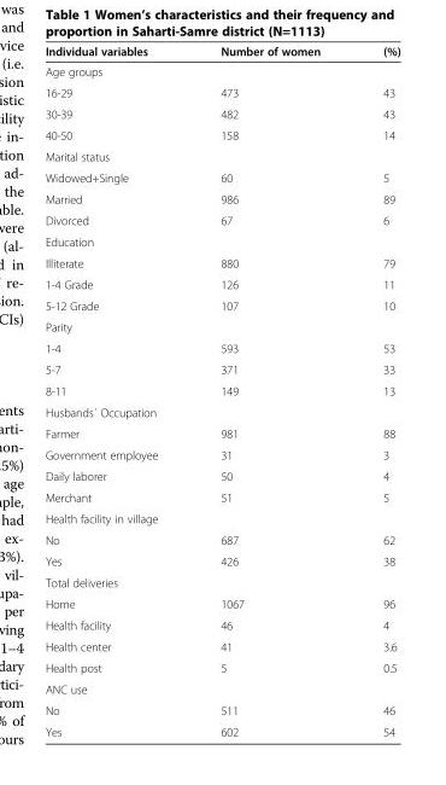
<table><thead><tr><td>Individual variables</td><td>Number of women</td><td>(%)</td></tr></thead><tbody><tr><td colspan="3">Age groups</td></tr><tr><td>16-29</td><td>473</td><td>43</td></tr><tr><td>30-39</td><td>482</td><td>43</td></tr><tr><td>40-50</td><td>158</td><td>14</td></tr><tr><td colspan="3">Marital status</td></tr><tr><td>Widowed+Single</td><td>60</td><td>5</td></tr><tr><td>Married</td><td>986</td><td>89</td></tr><tr><td>Divorced</td><td>67</td><td>6</td></tr><tr><td colspan="3">Education</td></tr><tr><td>Illiterate</td><td>880</td><td>79</td></tr><tr><td>1-4 Grade</td><td>126</td><td>11</td></tr><tr><td>5-12 Grade</td><td>107</td><td>10</td></tr><tr><td colspan="3">Parity</td></tr><tr><td>1-4</td><td>593</td><td>53</td></tr><tr><td>5-7</td><td>371</td><td>33</td></tr><tr><td>8-11</td><td>149</td><td>13</td></tr><tr><td colspan="3">Husbands´ Occupation</td></tr><tr><td>Farmer</td><td>981</td><td>88</td></tr><tr><td>Government employee</td><td>31</td><td>3</td></tr><tr><td>Daily laborer</td><td>50</td><td>4</td></tr><tr><td>Merchant</td><td>51</td><td>5</td></tr><tr><td colspan="3">Health facility in village</td></tr><tr><td>No</td><td>687</td><td>62</td></tr><tr><td>Yes</td><td>426</td><td>38</td></tr><tr><td colspan="3">Total deliveries</td></tr><tr><td>Home</td><td>1067</td><td>96</td></tr><tr><td>Health facility</td><td>46</td><td>4</td></tr><tr><td>Health center</td><td>41</td><td>3.6</td></tr><tr><td>Health post</td><td>5</td><td>0.5</td></tr><tr><td colspan="3">ANC use</td></tr><tr><td>No</td><td>511</td><td>46</td></tr><tr><td>Yes</td><td>602</td><td>54</td></tr></tbody></table>